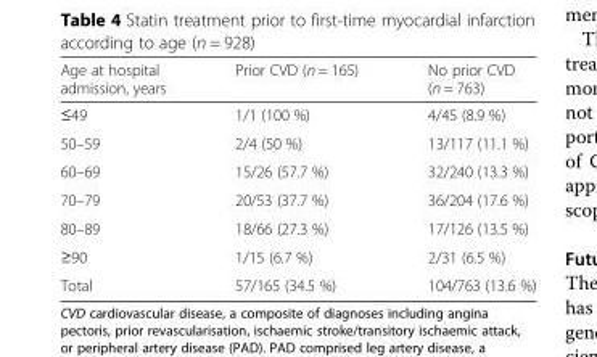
<table><thead><tr><td>Age at hospital admission, years</td><td>Prior CVD (n = 165)</td><td>No prior CVD (n = 763)</td></tr></thead><tbody><tr><td>≤49</td><td>1/1 (100 %)</td><td>4/45 (8.9 %)</td></tr><tr><td>50–59</td><td>2/4 (50 %)</td><td>13/117 (11.1 %)</td></tr><tr><td>60–69</td><td>15/26 (57.7 %)</td><td>32/240 (13.3 %)</td></tr><tr><td>70–79</td><td>20/53 (37.7 %)</td><td>36/204 (17.6 %)</td></tr><tr><td>80–89</td><td>18/66 (27.3 %)</td><td>17/126 (13.5 %)</td></tr><tr><td>≥90</td><td>1/15 (6.7 %)</td><td>2/31 (6.5 %)</td></tr><tr><td>Total</td><td>57/165 (34.5 %)</td><td>104/763 (13.6 %)</td></tr></tbody></table>